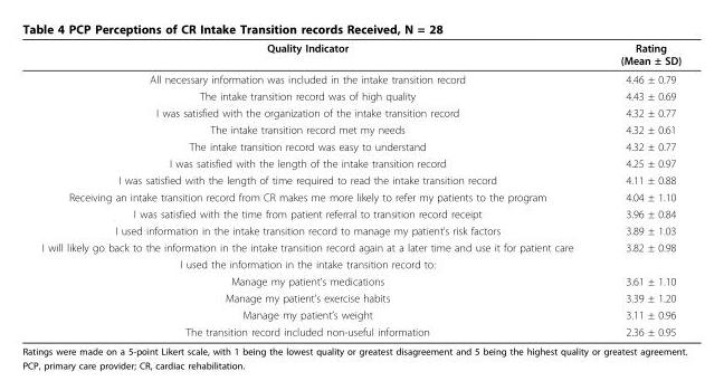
<table><thead><tr><td>Quality Indicator</td><td>Rating (Mean ± SD)</td></tr></thead><tbody><tr><td>All necessary information was included in the intake transition record</td><td>4.46 ± 0.79</td></tr><tr><td>The intake transition record was of high quality</td><td>4.43 ± 0.69</td></tr><tr><td>I was satisfied with the organization of the intake transition record</td><td>4.32 ± 0.77</td></tr><tr><td>The intake transition record met my needs</td><td>4.32 ± 0.61</td></tr><tr><td>The intake transition record was easy to understand</td><td>4.32 ± 0.77</td></tr><tr><td>I was satisfied with the length of the intake transition record</td><td>4.25 ± 0.97</td></tr><tr><td>I was satisfied with the length of time required to read the intake transition record</td><td>4.11 ± 0.88</td></tr><tr><td>Receiving an intake transition record from CR makes me more likely to refer my patients to the program</td><td>4.04 ± 1.10</td></tr><tr><td>I was satisfied with the time from patient referral to transition record receipt</td><td>3.96 ± 0.84</td></tr><tr><td>I used information in the intake transition record to manage my patient’s risk factors</td><td>3.89 ± 1.03</td></tr><tr><td>I will likely go back to the information in the intake transition record again at a later time and use it for patient care</td><td>3.82 ± 0.98</td></tr><tr><td colspan="2">I used the information in the intake transition record to:</td></tr><tr><td>Manage my patient’s medications</td><td>3.61 ± 1.10</td></tr><tr><td>Manage my patient’s exercise habits</td><td>3.39 ± 1.20</td></tr><tr><td>Manage my patient’s weight</td><td>3.11 ± 0.96</td></tr><tr><td>The transition record included non-useful information</td><td>2.36 ± 0.95</td></tr></tbody></table>